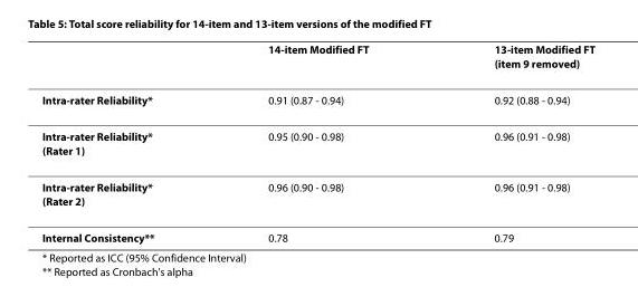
<table><thead><tr><td></td><td>14-item Modified FT</td><td>13-item Modified FT (item 9 removed)</td></tr></thead><tbody><tr><td>Intra-rater Reliability*</td><td>0.91 (0.87 - 0.94)</td><td>0.92 (0.88 - 0.94)</td></tr><tr><td>Intra-rater Reliability* (Rater 1)</td><td>0.95 (0.90 - 0.98)</td><td>0.96 (0.91 - 0.98)</td></tr><tr><td>Intra-rater Reliability* (Rater 2)</td><td>0.96 (0.90 - 0.98)</td><td>0.96 (0.91 - 0.98)</td></tr><tr><td>Internal Consistency**</td><td>0.78</td><td>0.79</td></tr></tbody></table>